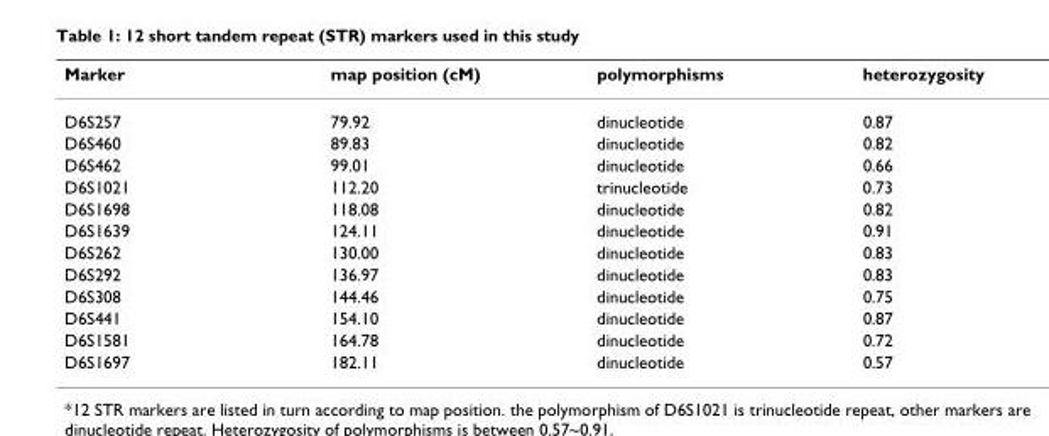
<table><thead><tr><td>Marker</td><td>map position (cM)</td><td>polymorphisms</td><td>heterozygosity</td></tr></thead><tbody><tr><td>D6S257</td><td>79.92</td><td>dinucleotide</td><td>0.87</td></tr><tr><td>D6S460</td><td>89.83</td><td>dinucleotide</td><td>0.82</td></tr><tr><td>D6S462</td><td>99.01</td><td>dinucleotide</td><td>0.66</td></tr><tr><td>D6S1021</td><td>112.20</td><td>trinucleotide</td><td>0.73</td></tr><tr><td>D6S1698</td><td>118.08</td><td>dinucleotide</td><td>0.82</td></tr><tr><td>D6S1639</td><td>124.11</td><td>dinucleotide</td><td>0.91</td></tr><tr><td>D6S262</td><td>130.00</td><td>dinucleotide</td><td>0.83</td></tr><tr><td>D6S292</td><td>136.97</td><td>dinucleotide</td><td>0.83</td></tr><tr><td>D6S308</td><td>144.46</td><td>dinucleotide</td><td>0.75</td></tr><tr><td>D6S441</td><td>154.10</td><td>dinucleotide</td><td>0.87</td></tr><tr><td>D6S1581</td><td>164.78</td><td>dinucleotide</td><td>0.72</td></tr><tr><td>D6S1697</td><td>182.11</td><td>dinucleotide</td><td>0.57</td></tr></tbody></table>